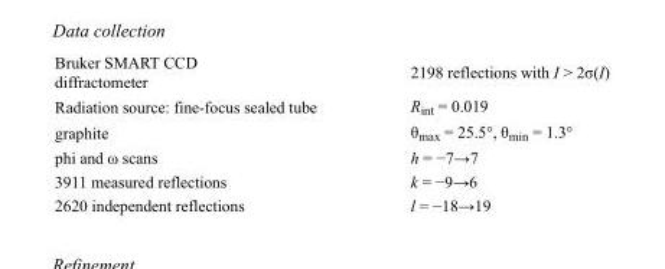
<table><tbody><tr><td>Bruker SMART CCD diffractometer</td><td>2198 reflections with I &gt; 2σ(I)</td></tr><tr><td>Radiation source: fine-focus sealed tube</td><td>R<sub>int</sub> = 0.019</td></tr><tr><td>graphite</td><td>θ<sub>max</sub> = 25.5°, θ<sub>min</sub> = 1.3°</td></tr><tr><td>phi and ω scans</td><td>h = −7→7</td></tr><tr><td>3911 measured reflections</td><td>k = −9→6</td></tr><tr><td>2620 independent reflections</td><td>l = −18→19</td></tr></tbody></table>